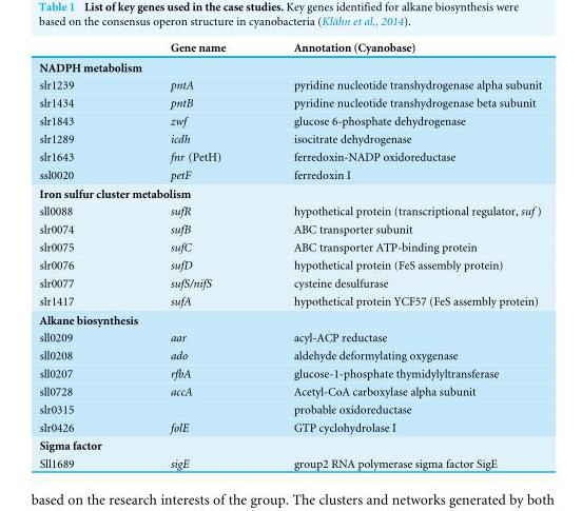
<table><thead><tr><td></td><td>Gene name</td><td>Annotation (Cyanobase)</td></tr></thead><tbody><tr><td colspan="3">NADPH metabolism</td></tr><tr><td>slr1239</td><td>pntA</td><td>pyridine nucleotide transhydrogenase alpha subunit</td></tr><tr><td>slr1434</td><td>pntB</td><td>pyridine nucleotide transhydrogenase beta subunit</td></tr><tr><td>slr1843</td><td>zwf</td><td>glucose 6-phosphate dehydrogenase</td></tr><tr><td>slr1289</td><td>icdh</td><td>isocitrate dehydrogenase</td></tr><tr><td>slr1643</td><td>fnr (PetH)</td><td>ferredoxin-NADP oxidoreductase</td></tr><tr><td>ssl0020</td><td>petF</td><td>ferredoxin I</td></tr><tr><td colspan="3">Iron sulfur cluster metabolism</td></tr><tr><td>sll0088</td><td>sufR</td><td>hypothetical protein (transcriptional regulator, suf )</td></tr><tr><td>slr0074</td><td>sufB</td><td>ABC transporter subunit</td></tr><tr><td>slr0075</td><td>sufC</td><td>ABC transporter ATP-binding protein</td></tr><tr><td>slr0076</td><td>sufD</td><td>hypothetical protein (FeS assembly protein)</td></tr><tr><td>slr0077</td><td>sufS/nifS</td><td>cysteine desulfurase</td></tr><tr><td>slr1417</td><td>sufA</td><td>hypothetical protein YCF57 (FeS assembly protein)</td></tr><tr><td colspan="3">Alkane biosynthesis</td></tr><tr><td>sll0209</td><td>aar</td><td>acyl-ACP reductase</td></tr><tr><td>sll0208</td><td>ado</td><td>aldehyde deformylating oxygenase</td></tr><tr><td>sll0207</td><td>rfbA</td><td>glucose-1-phosphate thymidylyltransferase</td></tr><tr><td>sll0728</td><td>accA</td><td>Acetyl-CoA carboxylase alpha subunit</td></tr><tr><td>slr0315</td><td></td><td>probable oxidoreductase</td></tr><tr><td>slr0426</td><td>folE</td><td>GTP cyclohydrolase I</td></tr><tr><td colspan="3">Sigma factor</td></tr><tr><td>Sll1689</td><td>sigE</td><td>group2 RNA polymerase sigma factor SigE</td></tr></tbody></table>